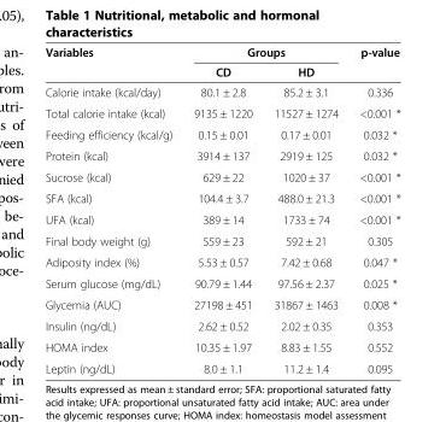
<table><thead><tr><td rowspan="2">Variables</td><td colspan="2">Groups</td><td rowspan="2">p-value</td></tr><tr><td>CD</td><td>HD</td></tr></thead><tbody><tr><td>Calorie intake (kcal/day)</td><td>80.1 ± 2.8</td><td>85.2 ± 3.1</td><td>0.336</td></tr><tr><td>Total calorie intake (kcal)</td><td>9135 ± 1220</td><td>11527 ± 1274</td><td>&lt;0.001 *</td></tr><tr><td>Feeding efficiency (kcal/g)</td><td>0.15 ± 0.01</td><td>0.17 ± 0.01</td><td>0.032 *</td></tr><tr><td>Protein (kcal)</td><td>3914 ± 137</td><td>2919 ± 125</td><td>0.032 *</td></tr><tr><td>Sucrose (kcal)</td><td>629 ± 22</td><td>1020 ± 37</td><td>&lt;0.001 *</td></tr><tr><td>SFA (kcal)</td><td>104.4 ± 3.7</td><td>488.0 ± 21.3</td><td>&lt;0.001 *</td></tr><tr><td>UFA (kcal)</td><td>389 ± 14</td><td>1733 ± 74</td><td>&lt;0.001 *</td></tr><tr><td>Final body weight (g)</td><td>559 ± 23</td><td>592 ± 21</td><td>0.305</td></tr><tr><td>Adiposity index (%)</td><td>5.53 ± 0.57</td><td>7.42 ± 0.68</td><td>0.047 *</td></tr><tr><td>Serum glucose (mg/dL)</td><td>90.79 ± 1.44</td><td>97.56 ± 2.37</td><td>0.025 *</td></tr><tr><td>Glycemia (AUC)</td><td>27198 ± 451</td><td>31867 ± 1463</td><td>0.008 *</td></tr><tr><td>Insulin (ng/dL)</td><td>2.62 ± 0.52</td><td>2.02 ± 0.35</td><td>0.353</td></tr><tr><td>HOMA index</td><td>10.35 ± 1.97</td><td>8.83 ± 1.55</td><td>0.552</td></tr><tr><td>Leptin (ng/dL)</td><td>8.0 ± 1.1</td><td>11.2 ± 1.4</td><td>0.095</td></tr></tbody></table>